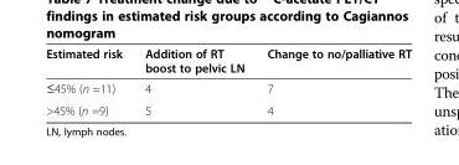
<table><thead><tr><td>Estimated risk</td><td>Addition of RT boost to pelvic LN</td><td>Change to no/palliative RT</td></tr></thead><tbody><tr><td>≤45% (n =11)</td><td>4</td><td>7</td></tr><tr><td>&gt;45% (n =9)</td><td>5</td><td>4</td></tr></tbody></table>